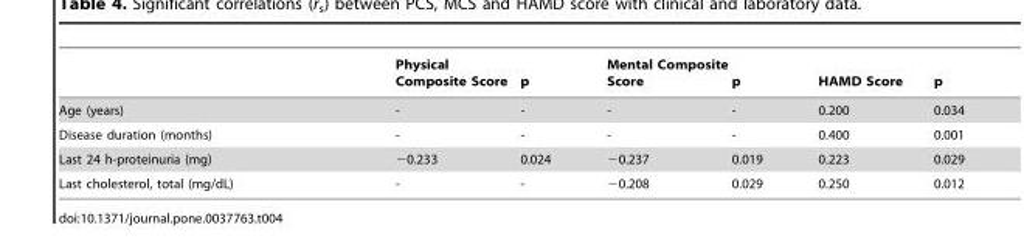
<table><thead><tr><td></td><td>Physical Composite Score</td><td>p</td><td>Mental Composite Score</td><td>p</td><td>HAMD Score</td><td>p</td></tr></thead><tbody><tr><td>Age (years)</td><td>-</td><td>-</td><td>-</td><td>-</td><td>0.200</td><td>0.034</td></tr><tr><td>Disease duration (months)</td><td>-</td><td>-</td><td>-</td><td>-</td><td>0.400</td><td>0.001</td></tr><tr><td>Last 24 h-proteinuria (mg)</td><td>−0.233</td><td>0.024</td><td>−0.237</td><td>0.019</td><td>0.223</td><td>0.029</td></tr><tr><td>Last cholesterol, total (mg/dL)</td><td>-</td><td>-</td><td>−0.208</td><td>0.029</td><td>0.250</td><td>0.012</td></tr></tbody></table>